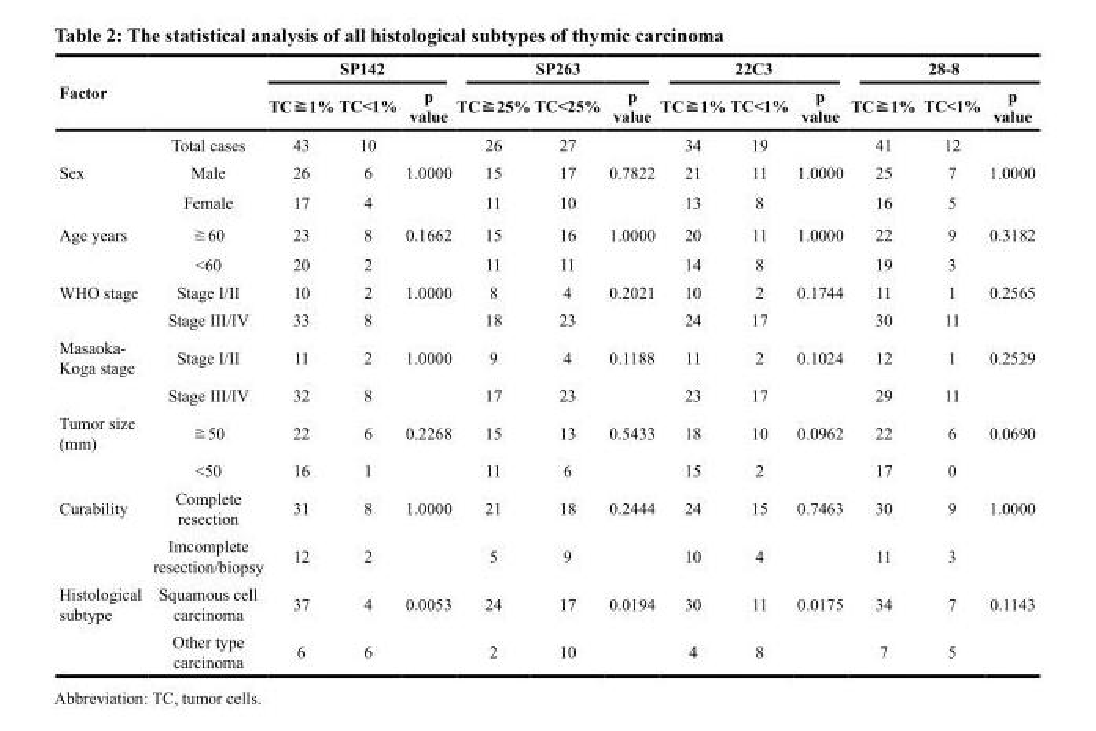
<table><thead><tr><td rowspan="2" colspan="2">Factor</td><td colspan="3">SP142</td><td colspan="3">SP263</td><td colspan="3">22C3</td><td colspan="3">28-8</td></tr><tr><td rowspan="2">TC≧1% 43</td><td rowspan="2">TC&lt;1% 10</td><td rowspan="2">p value</td><td rowspan="2">TC≧25% 26</td><td rowspan="2">TC&lt;25% 27</td><td rowspan="2">p value</td><td rowspan="2">TC≧1% 34</td><td rowspan="2">TC&lt;1% 19</td><td rowspan="2">p value</td><td rowspan="2">TC≧1% 41</td><td rowspan="2">TC&lt;1% 12</td><td rowspan="2">p value</td></tr><tr><td></td><td>Total cases</td></tr></thead><tbody><tr><td rowspan="2">Sex</td><td>Male</td><td>26</td><td>6</td><td>1.0000</td><td>15</td><td>17</td><td>0.7822</td><td>21</td><td>11</td><td>1.0000</td><td>25</td><td>7</td><td>1.0000</td></tr><tr><td>Female</td><td>17</td><td>4</td><td></td><td>11</td><td>10</td><td></td><td>13</td><td>8</td><td></td><td>16</td><td>5</td><td></td></tr><tr><td rowspan="2">Age years</td><td>≧60</td><td>23</td><td>8</td><td>0.1662</td><td>15</td><td>16</td><td>1.0000</td><td>20</td><td>11</td><td>1.0000</td><td>22</td><td>9</td><td>0.3182</td></tr><tr><td>&lt;60</td><td>20</td><td>2</td><td></td><td>11</td><td>11</td><td></td><td>14</td><td>8</td><td></td><td>19</td><td>3</td><td></td></tr><tr><td rowspan="2">WHO stage</td><td>Stage I/II</td><td>10</td><td>2</td><td>1.0000</td><td>8</td><td>4</td><td>0.2021</td><td>10</td><td>2</td><td>0.1744</td><td>11</td><td>1</td><td>0.2565</td></tr><tr><td>Stage III/IV</td><td>33</td><td>8</td><td></td><td>18</td><td>23</td><td></td><td>24</td><td>17</td><td></td><td>30</td><td>11</td><td></td></tr><tr><td rowspan="2">Masaoka- Koga stage</td><td>Stage I/II</td><td>11</td><td>2</td><td>1.0000</td><td>9</td><td>4</td><td>0.1188</td><td>11</td><td>2</td><td>0.1024</td><td>12</td><td>1</td><td>0.2529</td></tr><tr><td>Stage III/IV</td><td>32</td><td>8</td><td></td><td>17</td><td>23</td><td></td><td>23</td><td>17</td><td></td><td>29</td><td>11</td><td></td></tr><tr><td rowspan="2">Tumor size (mm)</td><td>≧50</td><td>22</td><td>6</td><td>0.2268</td><td>15</td><td>13</td><td>0.5433</td><td>18</td><td>10</td><td>0.0962</td><td>22</td><td>6</td><td>0.0690</td></tr><tr><td>&lt;50</td><td>16</td><td>1</td><td></td><td>11</td><td>6</td><td></td><td>15</td><td>2</td><td></td><td>17</td><td>0</td><td></td></tr><tr><td rowspan="2">Curability</td><td>Complete resection</td><td>31</td><td>8</td><td>1.0000</td><td>21</td><td>18</td><td>0.2444</td><td>24</td><td>15</td><td>0.7463</td><td>30</td><td>9</td><td>1.0000</td></tr><tr><td>Imcomplete resection/biopsy</td><td>12</td><td>2</td><td></td><td>5</td><td>9</td><td></td><td>10</td><td>4</td><td></td><td>11</td><td>3</td><td></td></tr><tr><td rowspan="2">Histological subtype</td><td>Squamous cell carcinoma</td><td>37</td><td>4</td><td>0.0053</td><td>24</td><td>17</td><td>0.0194</td><td>30</td><td>11</td><td>0.0175</td><td>34</td><td>7</td><td>0.1143</td></tr><tr><td>Other type carcinoma</td><td>6</td><td>6</td><td></td><td>2</td><td>10</td><td></td><td>4</td><td>8</td><td></td><td>7</td><td>5</td><td></td></tr></tbody></table>